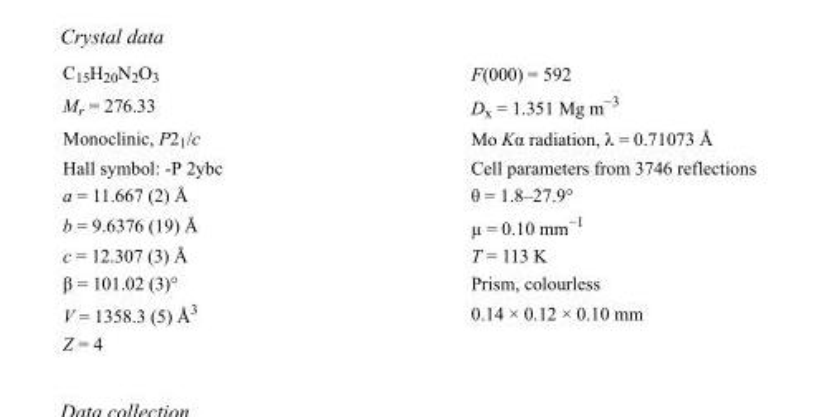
<table><tbody><tr><td>C<sub>15</sub>H<sub>20</sub>N<sub>2</sub>O<sub>3</sub></td><td>F(000) = 592</td></tr><tr><td>M<sub>r</sub> = 276.33</td><td>D<sub>x</sub> = 1.351 Mg m<sup>−3</sup></td></tr><tr><td>Monoclinic, P2<sub>1</sub>/c</td><td>Mo Kα radiation, λ = 0.71073 Å</td></tr><tr><td>Hall symbol: -P 2ybc</td><td>Cell parameters from 3746 reflections</td></tr><tr><td>a = 11.667 (2) Å</td><td>θ = 1.8–27.9°</td></tr><tr><td>b = 9.6376 (19) Å</td><td>µ = 0.10 mm<sup>−1</sup></td></tr><tr><td>c = 12.307 (3) Å</td><td>T = 113 K</td></tr><tr><td>β = 101.02 (3)°</td><td>Prism, colourless</td></tr><tr><td>V = 1358.3 (5) Å<sup>3</sup></td><td>0.14 × 0.12 × 0.10 mm</td></tr><tr><td>Z = 4</td><td></td></tr></tbody></table>